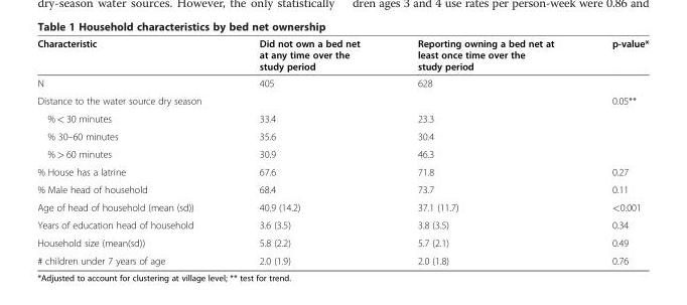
<table><thead><tr><td>Characteristic</td><td>Did not own a bed net at any time over the study period</td><td>Reporting owning a bed net at least once time over the study period</td><td>p-value*</td></tr></thead><tbody><tr><td>N</td><td>405</td><td>628</td><td></td></tr><tr><td colspan="3">Distance to the water source dry season</td><td rowspan="4">0.05**</td></tr><tr><td>% &lt; 30 minutes</td><td>33.4</td><td>23.3</td></tr><tr><td>% 30–60 minutes</td><td>35.6</td><td>30.4</td></tr><tr><td>% &gt; 60 minutes</td><td>30.9</td><td>46.3</td></tr><tr><td>% House has a latrine</td><td>67.6</td><td>71.8</td><td>0.27</td></tr><tr><td>% Male head of household</td><td>68.4</td><td>73.7</td><td>0.11</td></tr><tr><td>Age of head of household (mean (sd))</td><td>40.9 (14.2)</td><td>37.1 (11.7)</td><td>&lt;0.001</td></tr><tr><td>Years of education head of household</td><td>3.6 (3.5)</td><td>3.8 (3.5)</td><td>0.34</td></tr><tr><td>Household size (mean(sd))</td><td>5.8 (2.2)</td><td>5.7 (2.1)</td><td>0.49</td></tr><tr><td># children under 7 years of age</td><td>2.0 (1.9)</td><td>2.0 (1.8)</td><td>0.76</td></tr></tbody></table>